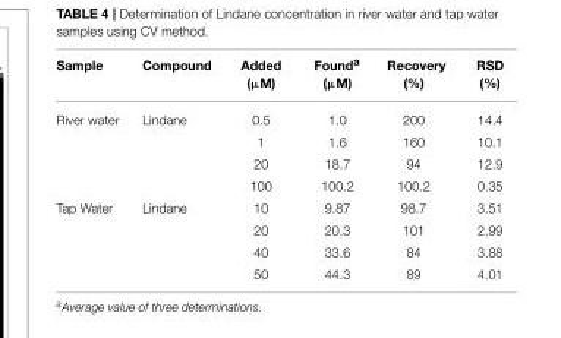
<table><thead><tr><td>Sample</td><td>Compound</td><td>Added (µM)</td><td>Found<sup>a</sup> (µM)</td><td>Recovery (%)</td><td>RSD (%)</td></tr></thead><tbody><tr><td rowspan="4">River water</td><td>Lindane</td><td>0.5</td><td>1.0</td><td>200</td><td>14.4</td></tr><tr><td></td><td>1</td><td>1.6</td><td>160</td><td>10.1</td></tr><tr><td></td><td>20</td><td>18.7</td><td>94</td><td>12.9</td></tr><tr><td></td><td>100</td><td>100.2</td><td>100.2</td><td>0.35</td></tr><tr><td rowspan="4">Tap Water</td><td>Lindane</td><td>10</td><td>9.87</td><td>98.7</td><td>3.51</td></tr><tr><td></td><td>20</td><td>20.3</td><td>101</td><td>2.99</td></tr><tr><td></td><td>40</td><td>33.6</td><td>84</td><td>3.88</td></tr><tr><td></td><td>50</td><td>44.3</td><td>89</td><td>4.01</td></tr></tbody></table>